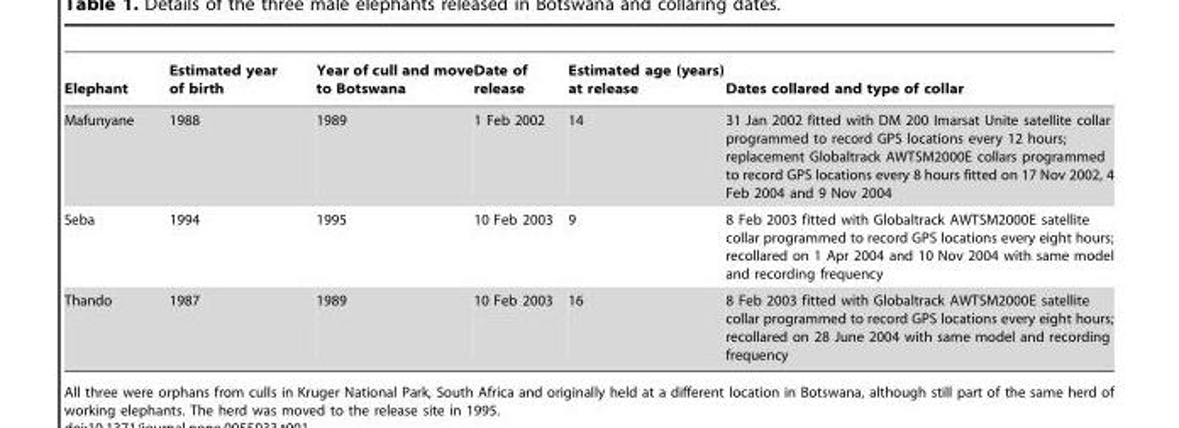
<table><thead><tr><td>Elephant</td><td>Estimated year of birth</td><td>Year of cull and move to Botswana</td><td>Date of release</td><td>Estimated age (years) at release</td><td>Dates collared and type of collar</td></tr></thead><tbody><tr><td>Mafunyane</td><td>1988</td><td>1989</td><td>1 Feb 2002</td><td>14</td><td>31 Jan 2002 fitted with DM 200 Imarsat Unite satellite collar programmed to record GPS locations every 12 hours; replacement Globaltrack AWTSM2000E collars programmed to record GPS locations every 8 hours fitted on 17 Nov 2002, 4 Feb 2004 and 9 Nov 2004</td></tr><tr><td>Seba</td><td>1994</td><td>1995</td><td>10 Feb 2003</td><td>9</td><td>8 Feb 2003 fitted with Globaltrack AWTSM2000E satellite collar programmed to record GPS locations every eight hours; recollared on 1 Apr 2004 and 10 Nov 2004 with same model and recording frequency</td></tr><tr><td>Thando</td><td>1987</td><td>1989</td><td>10 Feb 2003</td><td>16</td><td>8 Feb 2003 fitted with Globaltrack AWTSM2000E satellite collar programmed to record GPS locations every eight hours; recollared on 28 June 2004 with same model and recording frequency</td></tr></tbody></table>